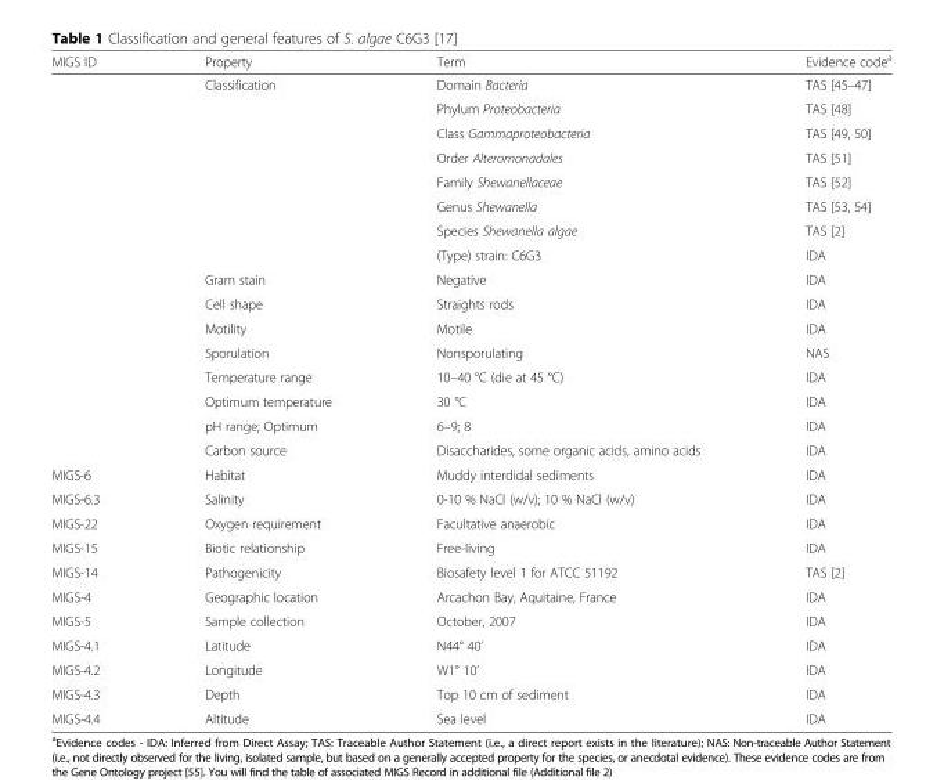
<table><thead><tr><td>MIGS ID</td><td>Property</td><td>Term</td><td>Evidence code<sup>a</sup></td></tr></thead><tbody><tr><td></td><td>Classification</td><td>Domain Bacteria</td><td>TAS [45–47]</td></tr><tr><td></td><td></td><td>Phylum Proteobacteria</td><td>TAS [48]</td></tr><tr><td></td><td></td><td>Class Gammaproteobacteria</td><td>TAS [49, 50]</td></tr><tr><td></td><td></td><td>Order Alteromonadales</td><td>TAS [51]</td></tr><tr><td></td><td></td><td>Family Shewanellaceae</td><td>TAS [52]</td></tr><tr><td></td><td></td><td>Genus Shewanella</td><td>TAS [53, 54]</td></tr><tr><td></td><td></td><td>Species Shewanella algae</td><td>TAS [2]</td></tr><tr><td></td><td></td><td>(Type) strain: C6G3</td><td>IDA</td></tr><tr><td></td><td>Gram stain</td><td>Negative</td><td>IDA</td></tr><tr><td></td><td>Cell shape</td><td>Straights rods</td><td>IDA</td></tr><tr><td></td><td>Motility</td><td>Motile</td><td>IDA</td></tr><tr><td></td><td>Sporulation</td><td>Nonsporulating</td><td>NAS</td></tr><tr><td></td><td>Temperature range</td><td>10–40 °C (die at 45 °C)</td><td>IDA</td></tr><tr><td></td><td>Optimum temperature</td><td>30 °C</td><td>IDA</td></tr><tr><td></td><td>pH range; Optimum</td><td>6–9; 8</td><td>IDA</td></tr><tr><td></td><td>Carbon source</td><td>Disaccharides, some organic acids, amino acids</td><td>IDA</td></tr><tr><td>MIGS-6</td><td>Habitat</td><td>Muddy interdidal sediments</td><td>IDA</td></tr><tr><td>MIGS-6.3</td><td>Salinity</td><td>0-10 % NaCl (w/v); 10 % NaCl (w/v)</td><td>IDA</td></tr><tr><td>MIGS-22</td><td>Oxygen requirement</td><td>Facultative anaerobic</td><td>IDA</td></tr><tr><td>MIGS-15</td><td>Biotic relationship</td><td>Free-living</td><td>IDA</td></tr><tr><td>MIGS-14</td><td>Pathogenicity</td><td>Biosafety level 1 for ATCC 51192</td><td>TAS [2]</td></tr><tr><td>MIGS-4</td><td>Geographic location</td><td>Arcachon Bay, Aquitaine, France</td><td>IDA</td></tr><tr><td>MIGS-5</td><td>Sample collection</td><td>October, 2007</td><td>IDA</td></tr><tr><td>MIGS-4.1</td><td>Latitude</td><td>N44° 40’</td><td>IDA</td></tr><tr><td>MIGS-4.2</td><td>Longitude</td><td>W1° 10’</td><td>IDA</td></tr><tr><td>MIGS-4.3</td><td>Depth</td><td>Top 10 cm of sediment</td><td>IDA</td></tr><tr><td>MIGS-4.4</td><td>Altitude</td><td>Sea level</td><td>IDA</td></tr></tbody></table>